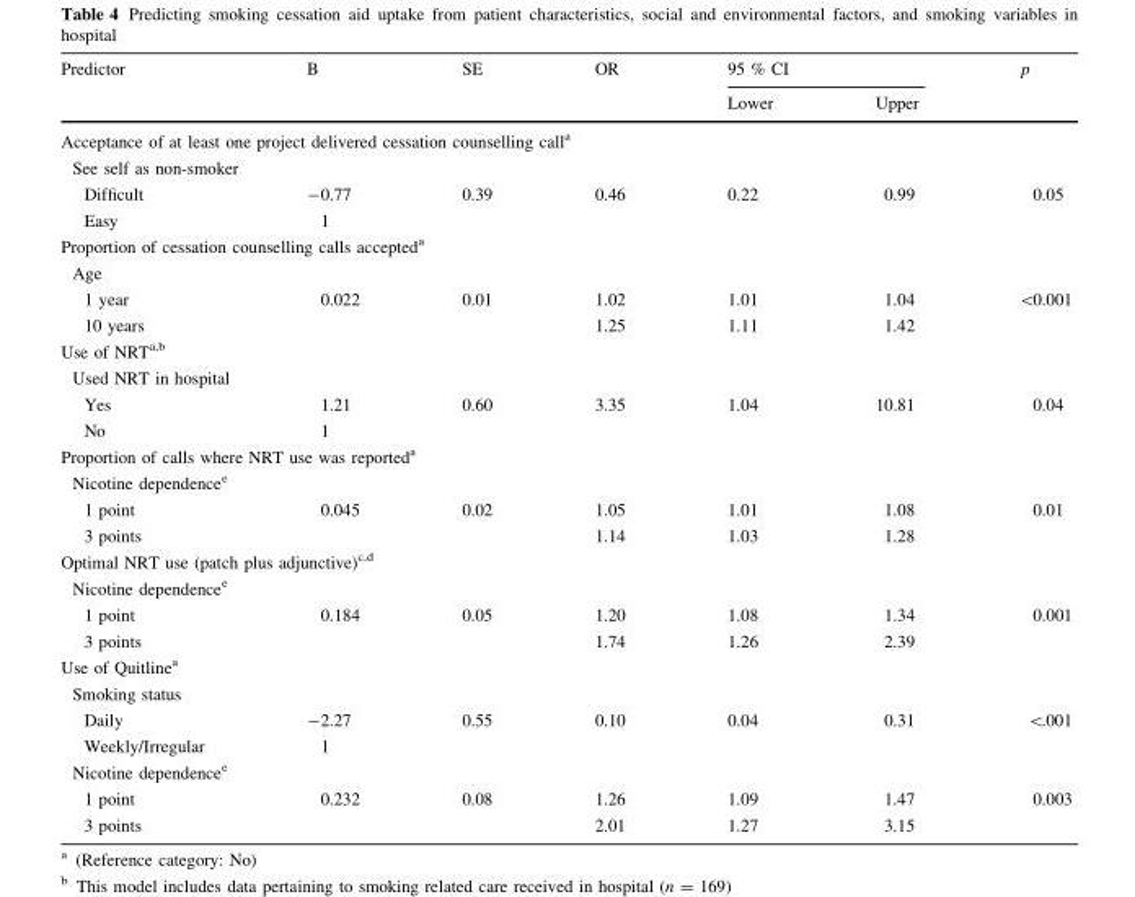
<table><thead><tr><td rowspan="2">Predictor</td><td rowspan="2">B</td><td rowspan="2">SE</td><td rowspan="2">OR</td><td colspan="2">95 % CI</td><td rowspan="2">p</td></tr><tr><td>Lower</td><td>Upper</td></tr></thead><tbody><tr><td colspan="7">Acceptance of at least one project delivered cessation counselling call<sup>a</sup></td></tr><tr><td colspan="7">See self as non-smoker</td></tr><tr><td>Difficult</td><td>-0.77</td><td>0.39</td><td>0.46</td><td>0.22</td><td>0.99</td><td>0.05</td></tr><tr><td>Easy</td><td>1</td><td></td><td></td><td></td><td></td><td></td></tr><tr><td colspan="7">Proportion of cessation counselling calls accepted<sup>a</sup></td></tr><tr><td colspan="7">Age</td></tr><tr><td>1 year</td><td>0.022</td><td>0.01</td><td>1.02</td><td>1.01</td><td>1.04</td><td>&lt;0.001</td></tr><tr><td>10 years</td><td></td><td></td><td>1.25</td><td>1.11</td><td>1.42</td><td></td></tr><tr><td colspan="7">Use of NRT<sup>a,b</sup></td></tr><tr><td colspan="7">Used NRT in hospital</td></tr><tr><td>Yes</td><td>1.21</td><td>0.60</td><td>3.35</td><td>1.04</td><td>10.81</td><td>0.04</td></tr><tr><td>No</td><td>1</td><td></td><td></td><td></td><td></td><td></td></tr><tr><td colspan="7">Proportion of calls where NRT use was reported<sup>a</sup></td></tr><tr><td colspan="7">Nicotine dependence<sup>e</sup></td></tr><tr><td>1 point</td><td>0.045</td><td>0.02</td><td>1.05</td><td>1.01</td><td>1.08</td><td>0.01</td></tr><tr><td>3 points</td><td></td><td></td><td>1.14</td><td>1.03</td><td>1.28</td><td></td></tr><tr><td colspan="7">Optimal NRT use (patch plus adjunctive)<sup>c,d</sup></td></tr><tr><td colspan="7">Nicotine dependence<sup>e</sup></td></tr><tr><td>1 point</td><td>0.184</td><td>0.05</td><td>1.20</td><td>1.08</td><td>1.34</td><td>0.001</td></tr><tr><td>3 points</td><td></td><td></td><td>1.74</td><td>1.26</td><td>2.39</td><td></td></tr><tr><td colspan="7">Use of Quitline<sup>a</sup></td></tr><tr><td colspan="7">Smoking status</td></tr><tr><td>Daily</td><td>-2.27</td><td>0.55</td><td>0.10</td><td>0.04</td><td>0.31</td><td>&lt;.001</td></tr><tr><td>Weekly/Irregular</td><td>1</td><td></td><td></td><td></td><td></td><td></td></tr><tr><td colspan="7">Nicotine dependence<sup>e</sup></td></tr><tr><td>1 point</td><td>0.232</td><td>0.08</td><td>1.26</td><td>1.09</td><td>1.47</td><td>0.003</td></tr><tr><td>3 points</td><td></td><td></td><td>2.01</td><td>1.27</td><td>3.15</td><td></td></tr></tbody></table>